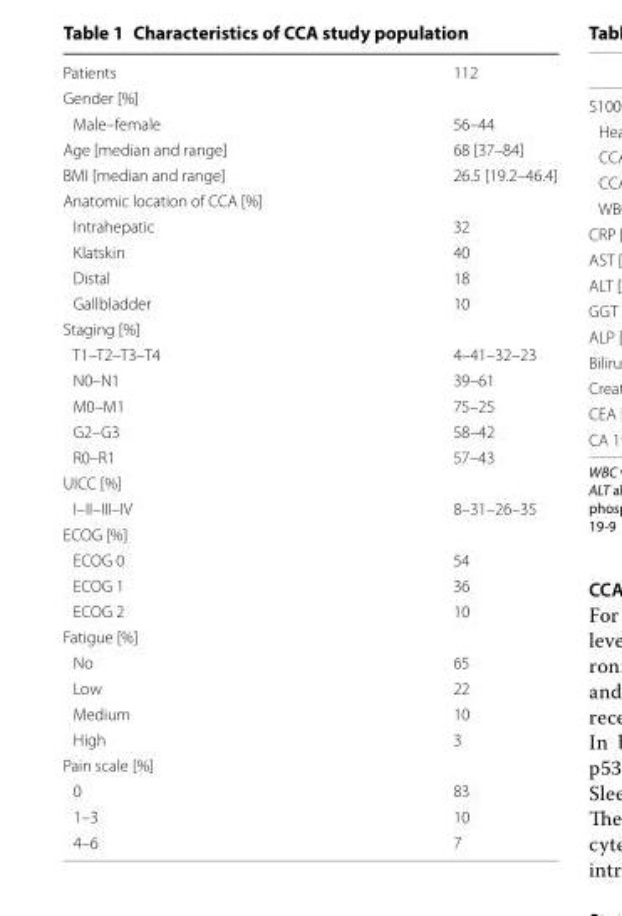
<table><tbody><tr><td>Patients</td><td>112</td></tr><tr><td colspan="2">Gender [%]</td></tr><tr><td>Male–female</td><td>56–44</td></tr><tr><td>Age [median and range]</td><td>68 [37–84]</td></tr><tr><td>BMI [median and range]</td><td>26.5 [19.2–46.4]</td></tr><tr><td colspan="2">Anatomic location of CCA [%]</td></tr><tr><td>Intrahepatic</td><td>32</td></tr><tr><td>Klatskin</td><td>40</td></tr><tr><td>Distal</td><td>18</td></tr><tr><td>Gallbladder</td><td>10</td></tr><tr><td colspan="2">Staging [%]</td></tr><tr><td>T1–T2–T3–T4</td><td>4–41–32–23</td></tr><tr><td>N0–N1</td><td>39–61</td></tr><tr><td>M0–M1</td><td>75–25</td></tr><tr><td>G2–G3</td><td>58–42</td></tr><tr><td>R0–R1</td><td>57–43</td></tr><tr><td colspan="2">UICC [%]</td></tr><tr><td>I–II–III–IV</td><td>8–31–26–35</td></tr><tr><td colspan="2">ECOG [%]</td></tr><tr><td>ECOG 0</td><td>54</td></tr><tr><td>ECOG 1</td><td>36</td></tr><tr><td>ECOG 2</td><td>10</td></tr><tr><td colspan="2">Fatigue [%]</td></tr><tr><td>No</td><td>65</td></tr><tr><td>Low</td><td>22</td></tr><tr><td>Medium</td><td>10</td></tr><tr><td>High</td><td>3</td></tr><tr><td colspan="2">Pain scale [%]</td></tr><tr><td>0</td><td>83</td></tr><tr><td>1–3</td><td>10</td></tr><tr><td>4–6</td><td>7</td></tr></tbody></table>